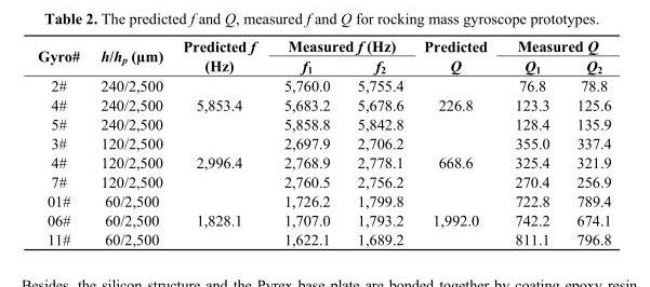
<table><thead><tr><td rowspan="2">Gyro#</td><td rowspan="2">h/h<sub>p</sub> (µm)</td><td rowspan="2">Predicted f (Hz)</td><td colspan="2">Measured f (Hz)</td><td rowspan="2">Predicted Q</td><td colspan="2">Measured Q</td></tr><tr><td>f<sub>1</sub></td><td>f<sub>2</sub></td><td>Q<sub>1</sub></td><td>Q<sub>2</sub></td></tr></thead><tbody><tr><td>2#</td><td>240/2,500</td><td></td><td>5,760.0</td><td>5,755.4</td><td></td><td>76.8</td><td>78.8</td></tr><tr><td>4#</td><td>240/2,500</td><td>5,853.4</td><td>5,683.2</td><td>5,678.6</td><td>226.8</td><td>123.3</td><td>125.6</td></tr><tr><td>5#</td><td>240/2,500</td><td></td><td>5,858.8</td><td>5,842.8</td><td></td><td>128.4</td><td>135.9</td></tr><tr><td>3#</td><td>120/2,500</td><td></td><td>2,697.9</td><td>2,706.2</td><td></td><td>355.0</td><td>337.4</td></tr><tr><td>4#</td><td>120/2,500</td><td>2,996.4</td><td>2,768.9</td><td>2,778.1</td><td>668.6</td><td>325.4</td><td>321.9</td></tr><tr><td>7#</td><td>120/2,500</td><td></td><td>2,760.5</td><td>2,756.2</td><td></td><td>270.4</td><td>256.9</td></tr><tr><td>01#</td><td>60/2,500</td><td></td><td>1,726.2</td><td>1,799.8</td><td></td><td>722.8</td><td>789.4</td></tr><tr><td>06#</td><td>60/2,500</td><td>1,828.1</td><td>1,707.0</td><td>1,793.2</td><td>1,992.0</td><td>742.2</td><td>674.1</td></tr><tr><td>11#</td><td>60/2,500</td><td></td><td>1,622.1</td><td>1,689.2</td><td></td><td>811.1</td><td>796.8</td></tr></tbody></table>